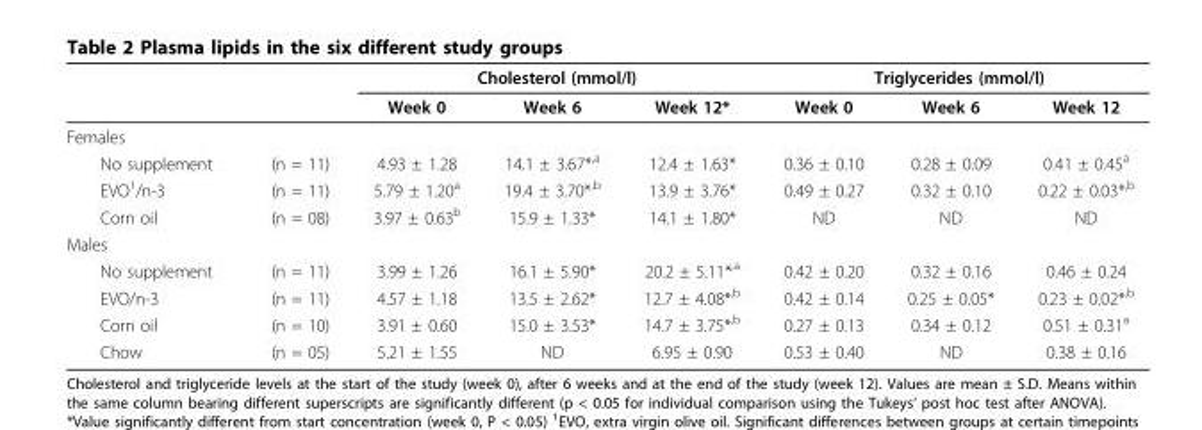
<table><thead><tr><td rowspan="2"></td><td rowspan="2"></td><td colspan="3">Cholesterol (mmol/l)</td><td colspan="3">Triglycerides (mmol/l)</td></tr><tr><td>Week 0</td><td>Week 6</td><td>Week 12*</td><td>Week 0</td><td>Week 6</td><td>Week 12</td></tr></thead><tbody><tr><td colspan="8">Females</td></tr><tr><td>No supplement</td><td>(n = 11)</td><td>4.93 ± 1.28</td><td>14.1 ± 3.67*<sup>,a</sup></td><td>12.4 ± 1.63*</td><td>0.36 ± 0.10</td><td>0.28 ± 0.09</td><td>0.41 ± 0.45<sup>a</sup></td></tr><tr><td>EVO<sup>1</sup>/n-3</td><td>(n = 11)</td><td>5.79 ± 1.20<sup>a</sup></td><td>19.4 ± 3.70*<sup>,b</sup></td><td>13.9 ± 3.76*</td><td>0.49 ± 0.27</td><td>0.32 ± 0.10</td><td>0.22 ± 0.03*<sup>,b</sup></td></tr><tr><td>Corn oil</td><td>(n = 08)</td><td>3.97 ± 0.63<sup>b</sup></td><td>15.9 ± 1.33*</td><td>14.1 ± 1.80*</td><td>ND</td><td>ND</td><td>ND</td></tr><tr><td colspan="8">Males</td></tr><tr><td>No supplement</td><td>(n = 11)</td><td>3.99 ± 1.26</td><td>16.1 ± 5.90*</td><td>20.2 ± 5.11*<sup>,a</sup></td><td>0.42 ± 0.20</td><td>0.32 ± 0.16</td><td>0.46 ± 0.24</td></tr><tr><td>EVO/n-3</td><td>(n = 11)</td><td>4.57 ± 1.18</td><td>13.5 ± 2.62*</td><td>12.7 ± 4.08*<sup>,b</sup></td><td>0.42 ± 0.14</td><td>0.25 ± 0.05*</td><td>0.23 ± 0.02*<sup>,b</sup></td></tr><tr><td>Corn oil</td><td>(n = 10)</td><td>3.91 ± 0.60</td><td>15.0 ± 3.53*</td><td>14.7 ± 3.75*<sup>,b</sup></td><td>0.27 ± 0.13</td><td>0.34 ± 0.12</td><td>0.51 ± 0.31<sup>a</sup></td></tr><tr><td>Chow</td><td>(n = 05)</td><td>5.21 ± 1.55</td><td>ND</td><td>6.95 ± 0.90</td><td>0.53 ± 0.40</td><td>ND</td><td>0.38 ± 0.16</td></tr></tbody></table>